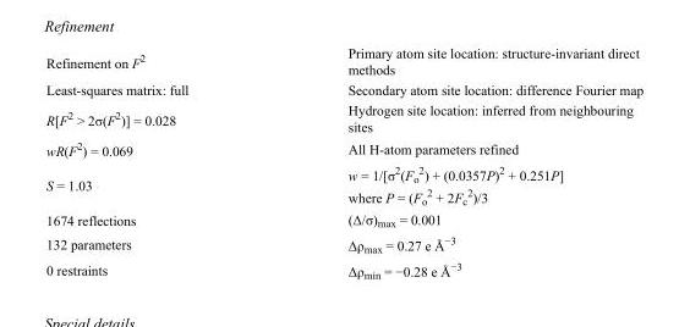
<table><tbody><tr><td>Refinement on F<sup>2</sup></td><td>Primary atom site location: structure-invariant direct methods</td></tr><tr><td>Least-squares matrix: full</td><td>Secondary atom site location: difference Fourier map</td></tr><tr><td>R[F<sup>2</sup> &gt; 2σ(F<sup>2</sup>)] = 0.028</td><td>Hydrogen site location: inferred from neighbouring sites</td></tr><tr><td>wR(F<sup>2</sup>) = 0.069</td><td>All H-atom parameters refined</td></tr><tr><td>S = 1.03</td><td>w = 1/[σ<sup>2</sup>(F<sub>o</sub> <sup>2</sup>) + (0.0357P)<sup>2</sup> + 0.251P] where P = (F<sub>o</sub> <sup>2</sup> + 2F<sub>c</sub> <sup>2</sup>)/3</td></tr><tr><td>1674 reflections</td><td>(Δ/σ)<sub>max</sub> = 0.001</td></tr><tr><td>132 parameters</td><td>Δρ<sub>max</sub> = 0.27 e Å<sup>−3</sup></td></tr><tr><td>0 restraints</td><td>Δρ<sub>min</sub> = −0.28 e Å<sup>−3</sup></td></tr></tbody></table>